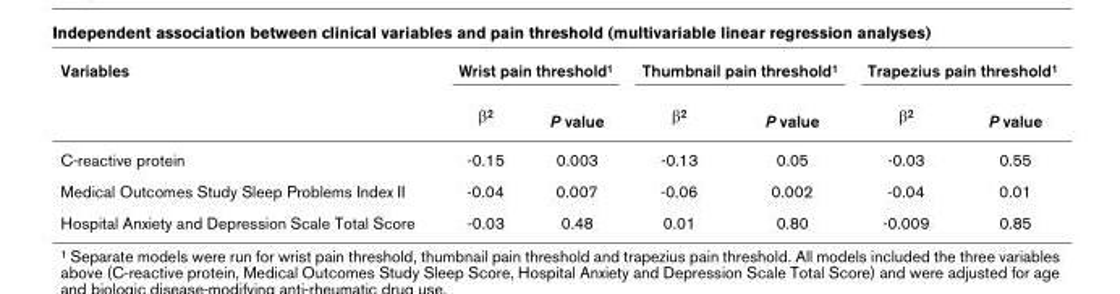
<table><thead><tr><td rowspan="2">Variables</td><td colspan="2">Wrist pain threshold<sup>1</sup></td><td colspan="2">Thumbnail pain threshold<sup>1</sup></td><td colspan="2">Trapezius pain threshold<sup>1</sup></td></tr><tr><td>β<sup>2</sup></td><td>P value</td><td>β<sup>2</sup></td><td>P value</td><td>β<sup>2</sup></td><td>P value</td></tr></thead><tbody><tr><td>C-reactive protein</td><td>-0.15</td><td>0.003</td><td>-0.13</td><td>0.05</td><td>-0.03</td><td>0.55</td></tr><tr><td>Medical Outcomes Study Sleep Problems Index II</td><td>-0.04</td><td>0.007</td><td>-0.06</td><td>0.002</td><td>-0.04</td><td>0.01</td></tr><tr><td>Hospital Anxiety and Depression Scale Total Score</td><td>-0.03</td><td>0.48</td><td>0.01</td><td>0.80</td><td>-0.009</td><td>0.85</td></tr></tbody></table>